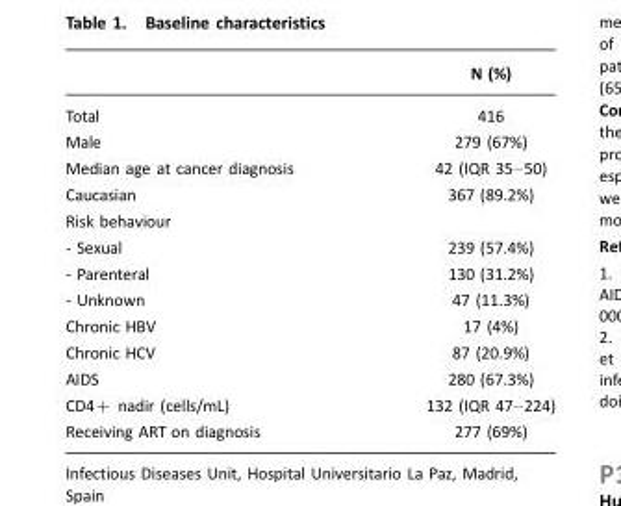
<table><thead><tr><td></td><td>N (%)</td></tr></thead><tbody><tr><td>Total</td><td>416</td></tr><tr><td>Male</td><td>279 (67%)</td></tr><tr><td>Median age at cancer diagnosis</td><td>42 (IQR 35–50)</td></tr><tr><td>Caucasian</td><td>367 (89.2%)</td></tr><tr><td colspan="2">Risk behaviour</td></tr><tr><td>- Sexual</td><td>239 (57.4%)</td></tr><tr><td>- Parenteral</td><td>130 (31.2%)</td></tr><tr><td>- Unknown</td><td>47 (11.3%)</td></tr><tr><td>Chronic HBV</td><td>17 (4%)</td></tr><tr><td>Chronic HCV</td><td>87 (20.9%)</td></tr><tr><td>AIDS</td><td>280 (67.3%)</td></tr><tr><td>CD4+ nadir (cells/mL)</td><td>132 (IQR 47–224)</td></tr><tr><td>Receiving ART on diagnosis</td><td>277 (69%)</td></tr></tbody></table>